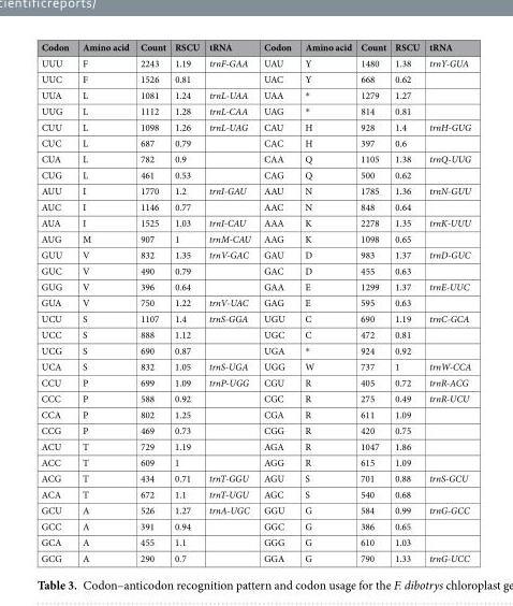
<table><thead><tr><td>Codon</td><td>Amino acid</td><td>Count</td><td>RSCU</td><td>tRNA</td><td>Codon</td><td>Amino acid</td><td>Count</td><td>RSCU</td><td>tRNA</td></tr></thead><tbody><tr><td>UUU</td><td>F</td><td>2243</td><td>1.19</td><td>trnF-GAA</td><td>UAU</td><td>Y</td><td>1480</td><td>1.38</td><td>trnY-GUA</td></tr><tr><td>UUC</td><td>F</td><td>1526</td><td>0.81</td><td></td><td>UAC</td><td>Y</td><td>668</td><td>0.62</td><td></td></tr><tr><td>UUA</td><td>L</td><td>1081</td><td>1.24</td><td>trnL-UAA</td><td>UAA</td><td>*</td><td>1279</td><td>1.27</td><td></td></tr><tr><td>UUG</td><td>L</td><td>1112</td><td>1.28</td><td>trnL-CAA</td><td>UAG</td><td>*</td><td>814</td><td>0.81</td><td></td></tr><tr><td>CUU</td><td>L</td><td>1098</td><td>1.26</td><td>trnL-UAG</td><td>CAU</td><td>H</td><td>928</td><td>1.4</td><td>trnH-GUG</td></tr><tr><td>CUC</td><td>L</td><td>687</td><td>0.79</td><td></td><td>CAC</td><td>H</td><td>397</td><td>0.6</td><td></td></tr><tr><td>CUA</td><td>L</td><td>782</td><td>0.9</td><td></td><td>CAA</td><td>Q</td><td>1105</td><td>1.38</td><td>trnQ-UUG</td></tr><tr><td>CUG</td><td>L</td><td>461</td><td>0.53</td><td></td><td>CAG</td><td>Q</td><td>500</td><td>0.62</td><td></td></tr><tr><td>AUU</td><td>I</td><td>1770</td><td>1.2</td><td>trnI-GAU</td><td>AAU</td><td>N</td><td>1785</td><td>1.36</td><td>trnN-GUU</td></tr><tr><td>AUC</td><td>I</td><td>1146</td><td>0.77</td><td></td><td>AAC</td><td>N</td><td>848</td><td>0.64</td><td></td></tr><tr><td>AUA</td><td>I</td><td>1525</td><td>1.03</td><td>trnI-CAU</td><td>AAA</td><td>K</td><td>2278</td><td>1.35</td><td>trnK-UUU</td></tr><tr><td>AUG</td><td>M</td><td>907</td><td>1</td><td>trnM-CAU</td><td>AAG</td><td>K</td><td>1098</td><td>0.65</td><td></td></tr><tr><td>GUU</td><td>V</td><td>832</td><td>1.35</td><td>trnV-GAC</td><td>GAU</td><td>D</td><td>983</td><td>1.37</td><td>trnD-GUC</td></tr><tr><td>GUC</td><td>V</td><td>490</td><td>0.79</td><td></td><td>GAC</td><td>D</td><td>455</td><td>0.63</td><td></td></tr><tr><td>GUG</td><td>V</td><td>396</td><td>0.64</td><td></td><td>GAA</td><td>E</td><td>1299</td><td>1.37</td><td>trnE-UUC</td></tr><tr><td>GUA</td><td>V</td><td>750</td><td>1.22</td><td>trnV-UAC</td><td>GAG</td><td>E</td><td>595</td><td>0.63</td><td></td></tr><tr><td>UCU</td><td>S</td><td>1107</td><td>1.4</td><td>trnS-GGA</td><td>UGU</td><td>C</td><td>690</td><td>1.19</td><td>trnC-GCA</td></tr><tr><td>UCC</td><td>S</td><td>888</td><td>1.12</td><td></td><td>UGC</td><td>C</td><td>472</td><td>0.81</td><td></td></tr><tr><td>UCG</td><td>S</td><td>690</td><td>0.87</td><td></td><td>UGA</td><td>*</td><td>924</td><td>0.92</td><td></td></tr><tr><td>UCA</td><td>S</td><td>832</td><td>1.05</td><td>trnS-UGA</td><td>UGG</td><td>W</td><td>737</td><td>1</td><td>trnW-CCA</td></tr><tr><td>CCU</td><td>P</td><td>699</td><td>1.09</td><td>trnP-UGG</td><td>CGU</td><td>R</td><td>405</td><td>0.72</td><td>trnR-ACG</td></tr><tr><td>CCC</td><td>P</td><td>588</td><td>0.92</td><td></td><td>CGC</td><td>R</td><td>275</td><td>0.49</td><td>trnR-UCU</td></tr><tr><td>CCA</td><td>P</td><td>802</td><td>1.25</td><td></td><td>CGA</td><td>R</td><td>611</td><td>1.09</td><td></td></tr><tr><td>CCG</td><td>P</td><td>469</td><td>0.73</td><td></td><td>CGG</td><td>R</td><td>420</td><td>0.75</td><td></td></tr><tr><td>ACU</td><td>T</td><td>729</td><td>1.19</td><td></td><td>AGA</td><td>R</td><td>1047</td><td>1.86</td><td></td></tr><tr><td>ACC</td><td>T</td><td>609</td><td>1</td><td></td><td>AGG</td><td>R</td><td>615</td><td>1.09</td><td></td></tr><tr><td>ACG</td><td>T</td><td>434</td><td>0.71</td><td>trnT-GGU</td><td>AGU</td><td>S</td><td>701</td><td>0.88</td><td>trnS-GCU</td></tr><tr><td>ACA</td><td>T</td><td>672</td><td>1.1</td><td>trnT-UGU</td><td>AGC</td><td>S</td><td>540</td><td>0.68</td><td></td></tr><tr><td>GCU</td><td>A</td><td>526</td><td>1.27</td><td>trnA-UGC</td><td>GGU</td><td>G</td><td>584</td><td>0.99</td><td>trnG-GCC</td></tr><tr><td>GCC</td><td>A</td><td>391</td><td>0.94</td><td></td><td>GGC</td><td>G</td><td>386</td><td>0.65</td><td></td></tr><tr><td>GCA</td><td>A</td><td>455</td><td>1.1</td><td></td><td>GGG</td><td>G</td><td>610</td><td>1.03</td><td></td></tr><tr><td>GCG</td><td>A</td><td>290</td><td>0.7</td><td></td><td>GGA</td><td>G</td><td>790</td><td>1.33</td><td>trnG-UCC</td></tr></tbody></table>